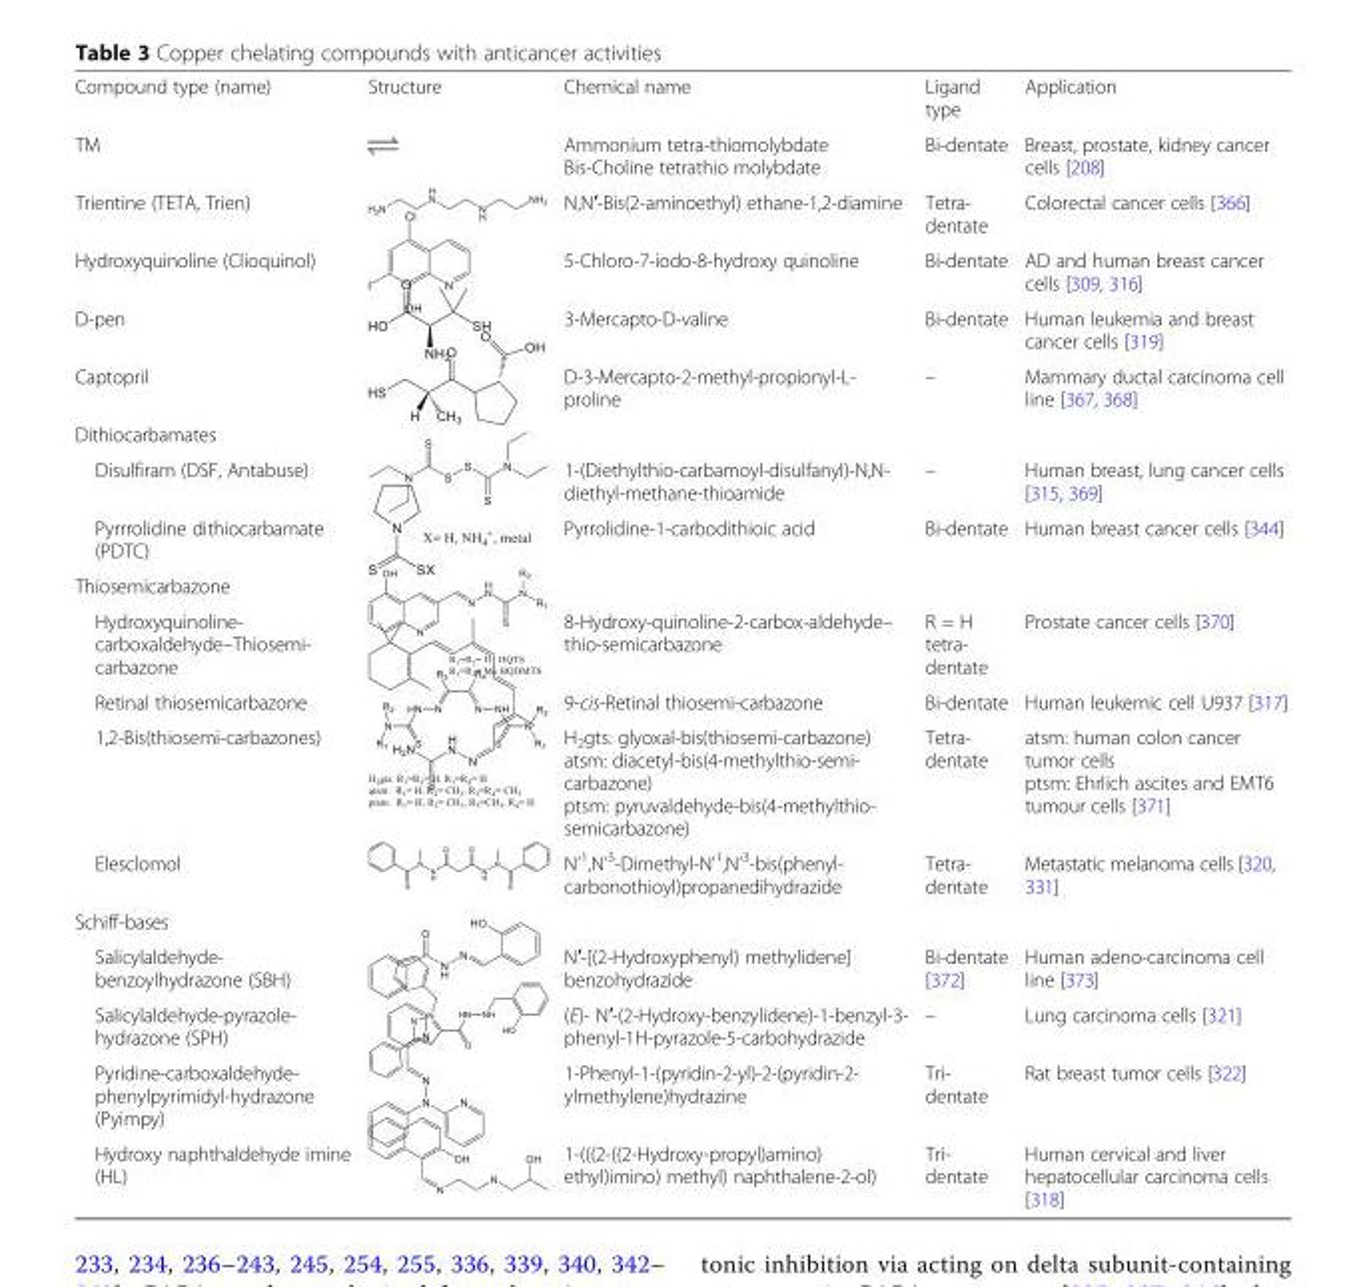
<table><tbody><tr><td>Compound type (name)</td><td>Structure</td><td>Chemical name</td><td>Ligand type</td><td>Application</td></tr><tr><td>TM</td><td></td><td>Ammonium tetra-thiomolybdate Bis-Choline tetrathio molybdate</td><td>Bi-dentate</td><td>Breast, prostate, kidney cancer cells [208]</td></tr><tr><td>Trientine (TETA, Trien)</td><td></td><td>N,N′-Bis(2-aminoethyl) ethane-1,2-diamine</td><td>Tetra- dentate</td><td>Colorectal cancer cells [366]</td></tr><tr><td>Hydroxyquinoline (Clioquinol)</td><td></td><td>5-Chloro-7-iodo-8-hydroxy quinoline</td><td>Bi-dentate</td><td>AD and human breast cancer cells [309, 316]</td></tr><tr><td>D-pen</td><td></td><td>3-Mercapto-D-valine</td><td>Bi-dentate</td><td>Human leukemia and breast cancer cells [319]</td></tr><tr><td>Captopril</td><td></td><td>D-3-Mercapto-2-methyl-propionyl-L- proline</td><td>–</td><td>Mammary ductal carcinoma cell line [367, 368]</td></tr><tr><td colspan="5">Dithiocarbamates</td></tr><tr><td>Disulfiram (DSF, Antabuse)</td><td></td><td>1-(Diethylthio-carbamoyl-disulfanyl)-N,N- diethyl-methane-thioamide</td><td>–</td><td>Human breast, lung cancer cells [315, 369]</td></tr><tr><td>Pyrrrolidine dithiocarbamate (PDTC)</td><td></td><td>Pyrrolidine-1-carbodithioic acid</td><td>Bi-dentate</td><td>Human breast cancer cells [344]</td></tr><tr><td colspan="5">Thiosemicarbazone</td></tr><tr><td>Hydroxyquinoline- carboxaldehyde–Thiosemi- carbazone</td><td></td><td>8-Hydroxy-quinoline-2-carbox-aldehyde– thio-semicarbazone</td><td>R = H tetra- dentate</td><td>Prostate cancer cells [370]</td></tr><tr><td>Retinal thiosemicarbazone</td><td></td><td>9-cis-Retinal thiosemi-carbazone</td><td>Bi-dentate</td><td>Human leukemic cell U937 [317]</td></tr><tr><td>1,2-Bis(thiosemi-carbazones)</td><td></td><td>H<sub>2</sub>gts: glyoxal-bis(thiosemi-carbazone) atsm: diacetyl-bis(4-methylthio-semi- carbazone) ptsm: pyruvaldehyde-bis(4-methylthio- semicarbazone)</td><td>Tetra- dentate</td><td>atsm: human colon cancer tumor cells ptsm: Ehrlich ascites and EMT6 tumour cells [371]</td></tr><tr><td>Elesclomol</td><td></td><td>N’<sup>1</sup>,N’<sup>3</sup>-Dimethyl-N’<sup>1</sup>,N’<sup>3</sup>-bis(phenyl- carbonothioyl)propanedihydrazide</td><td>Tetra- dentate</td><td>Metastatic melanoma cells [320, 331]</td></tr><tr><td colspan="5">Schiff-bases</td></tr><tr><td>Salicylaldehyde- benzoylhydrazone (SBH)</td><td></td><td>N′-[(2-Hydroxyphenyl) methylidene] benzohydrazide</td><td>Bi-dentate [372]</td><td>Human adeno-carcinoma cell line [373]</td></tr><tr><td>Salicylaldehyde-pyrazole- hydrazone (SPH)</td><td></td><td>(E)- N′-(2-Hydroxy-benzylidene)-1-benzyl-3- phenyl-1H-pyrazole-5-carbohydrazide</td><td>–</td><td>Lung carcinoma cells [321]</td></tr><tr><td>Pyridine-carboxaldehyde- phenylpyrimidyl-hydrazone (Pyimpy)</td><td></td><td>1-Phenyl-1-(pyridin-2-yl)-2-(pyridin-2- ylmethylene)hydrazine</td><td>Tri- dentate</td><td>Rat breast tumor cells [322]</td></tr><tr><td>Hydroxy naphthaldehyde imine (HL)</td><td></td><td>1-(((2-((2-Hydroxy-propyl)amino) ethyl)imino) methyl) naphthalene-2-ol)</td><td>Tri- dentate</td><td>Human cervical and liver hepatocellular carcinoma cells [318]</td></tr></tbody></table>